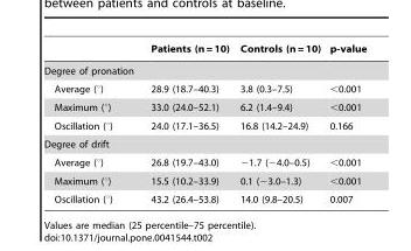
<table><thead><tr><td></td><td>Patients (n = 10)</td><td>Controls (n = 10)</td><td>p-value</td></tr></thead><tbody><tr><td colspan="4">Degree of pronation</td></tr><tr><td>Average (°)</td><td>28.9 (18.7–40.3)</td><td>3.8 (0.3–7.5)</td><td>&lt;0.001</td></tr><tr><td>Maximum (°)</td><td>33.0 (24.0–52.1)</td><td>6.2 (1.4–9.4)</td><td>&lt;0.001</td></tr><tr><td>Oscillation (°)</td><td>24.0 (17.1–36.5)</td><td>16.8 (14.2–24.9)</td><td>0.166</td></tr><tr><td colspan="4">Degree of drift</td></tr><tr><td>Average (°)</td><td>26.8 (19.7–43.0)</td><td>−1.7 (−4.0–0.5)</td><td>&lt;0.001</td></tr><tr><td>Maximum (°)</td><td>15.5 (10.2–33.9)</td><td>0.1 (−3.0–1.3)</td><td>&lt;0.001</td></tr><tr><td>Oscillation (°)</td><td>43.2 (26.4–53.8)</td><td>14.0 (9.8–20.5)</td><td>0.007</td></tr></tbody></table>